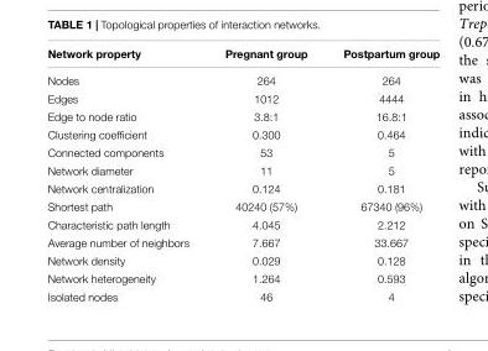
<table><thead><tr><td>Network property</td><td>Pregnant group</td><td>Postpartum group</td></tr></thead><tbody><tr><td>Nodes</td><td>264</td><td>264</td></tr><tr><td>Edges</td><td>1012</td><td>4444</td></tr><tr><td>Edge to node ratio</td><td>3.8:1</td><td>16.8:1</td></tr><tr><td>Clustering coefficient</td><td>0.300</td><td>0.464</td></tr><tr><td>Connected components</td><td>53</td><td>5</td></tr><tr><td>Network diameter</td><td>11</td><td>5</td></tr><tr><td>Network centralization</td><td>0.124</td><td>0.181</td></tr><tr><td>Shortest path</td><td>40240 (57%)</td><td>67340 (96%)</td></tr><tr><td>Characteristic path length</td><td>4.045</td><td>2.212</td></tr><tr><td>Average number of neighbors</td><td>7.667</td><td>33.667</td></tr><tr><td>Network density</td><td>0.029</td><td>0.128</td></tr><tr><td>Network heterogeneity</td><td>1.264</td><td>0.593</td></tr><tr><td>Isolated nodes</td><td>46</td><td>4</td></tr></tbody></table>